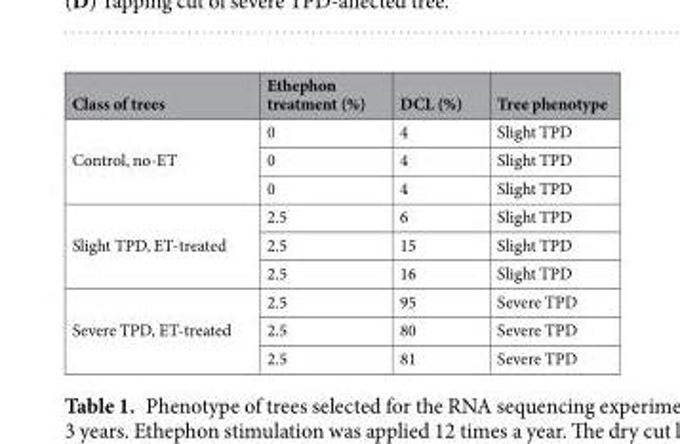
<table><thead><tr><td>Class of trees</td><td>Ethephon treatment (%)</td><td>DCL (%)</td><td>Tree phenotype</td></tr></thead><tbody><tr><td rowspan="3">Control, no-ET</td><td>0</td><td>4</td><td>Slight TPD</td></tr><tr><td>0</td><td>4</td><td>Slight TPD</td></tr><tr><td>0</td><td>4</td><td>Slight TPD</td></tr><tr><td rowspan="3">Slight TPD, ET-treated</td><td>2.5</td><td>6</td><td>Slight TPD</td></tr><tr><td>2.5</td><td>15</td><td>Slight TPD</td></tr><tr><td>2.5</td><td>16</td><td>Slight TPD</td></tr><tr><td rowspan="3">Severe TPD, ET-treated</td><td>2.5</td><td>95</td><td>Severe TPD</td></tr><tr><td>2.5</td><td>80</td><td>Severe TPD</td></tr><tr><td>2.5</td><td>81</td><td>Severe TPD</td></tr></tbody></table>